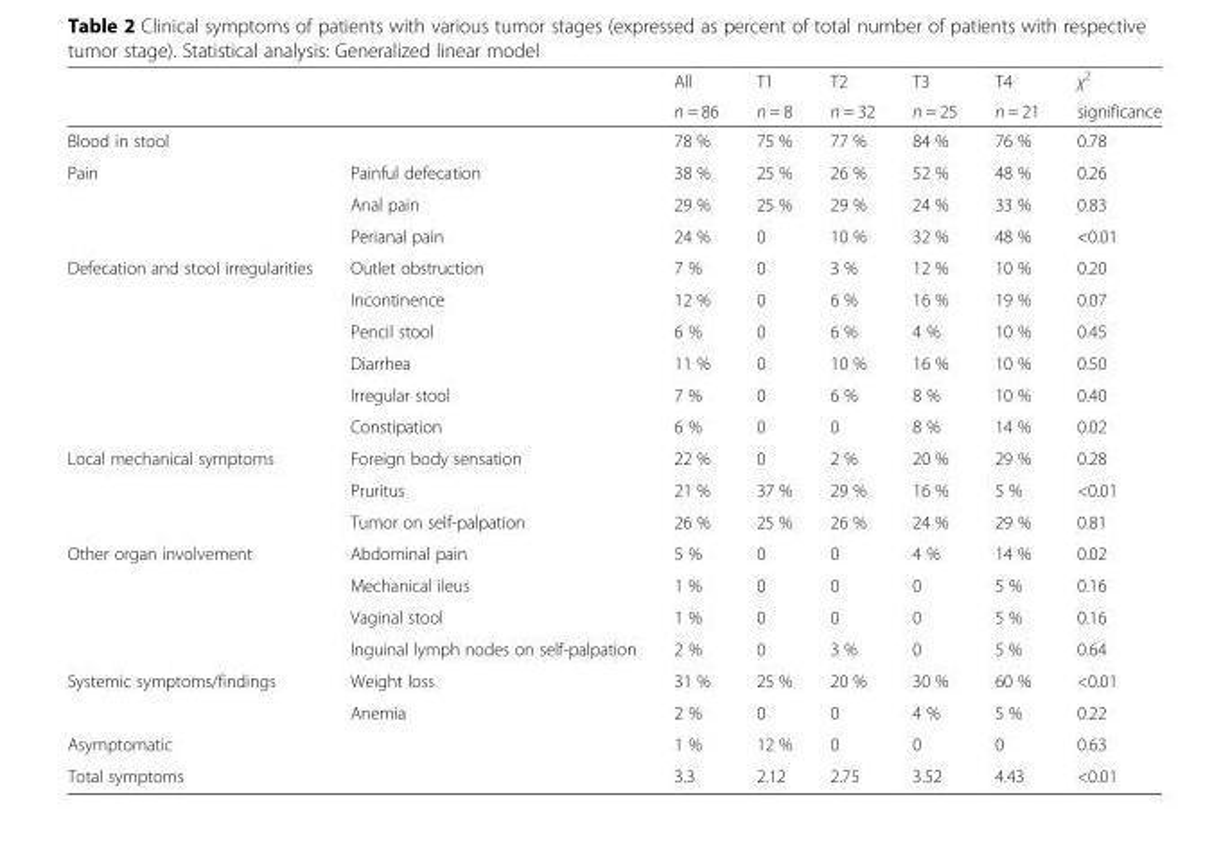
<table><thead><tr><td rowspan="2"></td><td rowspan="2"></td><td rowspan="2">All n = 86</td><td rowspan="2">T1 n = 8</td><td rowspan="2">T2 n = 32</td><td rowspan="2">T3 n = 25</td><td rowspan="2">T4 n = 21</td><td rowspan="2">χ<sup>2</sup> significance</td></tr><tr></tr></thead><tbody><tr><td>Blood in stool</td><td></td><td>78 %</td><td>75 %</td><td>77 %</td><td>84 %</td><td>76 %</td><td>0.78</td></tr><tr><td rowspan="3">Pain</td><td>Painful defecation</td><td>38 %</td><td>25 %</td><td>26 %</td><td>52 %</td><td>48 %</td><td>0.26</td></tr><tr><td>Anal pain</td><td>29 %</td><td>25 %</td><td>29 %</td><td>24 %</td><td>33 %</td><td>0.83</td></tr><tr><td>Perianal pain</td><td>24 %</td><td>0</td><td>10 %</td><td>32 %</td><td>48 %</td><td>&lt;0.01</td></tr><tr><td rowspan="6">Defecation and stool irregularities</td><td>Outlet obstruction</td><td>7 %</td><td>0</td><td>3 %</td><td>12 %</td><td>10 %</td><td>0.20</td></tr><tr><td>Incontinence</td><td>12 %</td><td>0</td><td>6 %</td><td>16 %</td><td>19 %</td><td>0.07</td></tr><tr><td>Pencil stool</td><td>6 %</td><td>0</td><td>6 %</td><td>4 %</td><td>10 %</td><td>0.45</td></tr><tr><td>Diarrhea</td><td>11 %</td><td>0</td><td>10 %</td><td>16 %</td><td>10 %</td><td>0.50</td></tr><tr><td>Irregular stool</td><td>7 %</td><td>0</td><td>6 %</td><td>8 %</td><td>10 %</td><td>0.40</td></tr><tr><td>Constipation</td><td>6 %</td><td>0</td><td>0</td><td>8 %</td><td>14 %</td><td>0.02</td></tr><tr><td rowspan="3">Local mechanical symptoms</td><td>Foreign body sensation</td><td>22 %</td><td>0</td><td>2 %</td><td>20 %</td><td>29 %</td><td>0.28</td></tr><tr><td>Pruritus</td><td>21 %</td><td>37 %</td><td>29 %</td><td>16 %</td><td>5 %</td><td>&lt;0.01</td></tr><tr><td>Tumor on self-palpation</td><td>26 %</td><td>25 %</td><td>26 %</td><td>24 %</td><td>29 %</td><td>0.81</td></tr><tr><td rowspan="4">Other organ involvement</td><td>Abdominal pain</td><td>5 %</td><td>0</td><td>0</td><td>4 %</td><td>14 %</td><td>0.02</td></tr><tr><td>Mechanical ileus</td><td>1 %</td><td>0</td><td>0</td><td>0</td><td>5 %</td><td>0.16</td></tr><tr><td>Vaginal stool</td><td>1 %</td><td>0</td><td>0</td><td>0</td><td>5 %</td><td>0.16</td></tr><tr><td>Inguinal lymph nodes on self-palpation</td><td>2 %</td><td>0</td><td>3 %</td><td>0</td><td>5 %</td><td>0.64</td></tr><tr><td rowspan="2">Systemic symptoms/findings</td><td>Weight loss</td><td>31 %</td><td>25 %</td><td>20 %</td><td>30 %</td><td>60 %</td><td>&lt;0.01</td></tr><tr><td>Anemia</td><td>2 %</td><td>0</td><td>0</td><td>4 %</td><td>5 %</td><td>0.22</td></tr><tr><td>Asymptomatic</td><td></td><td>1 %</td><td>12 %</td><td>0</td><td>0</td><td>0</td><td>0.63</td></tr><tr><td>Total symptoms</td><td></td><td>3.3</td><td>2.12</td><td>2.75</td><td>3.52</td><td>4.43</td><td>&lt;0.01</td></tr></tbody></table>